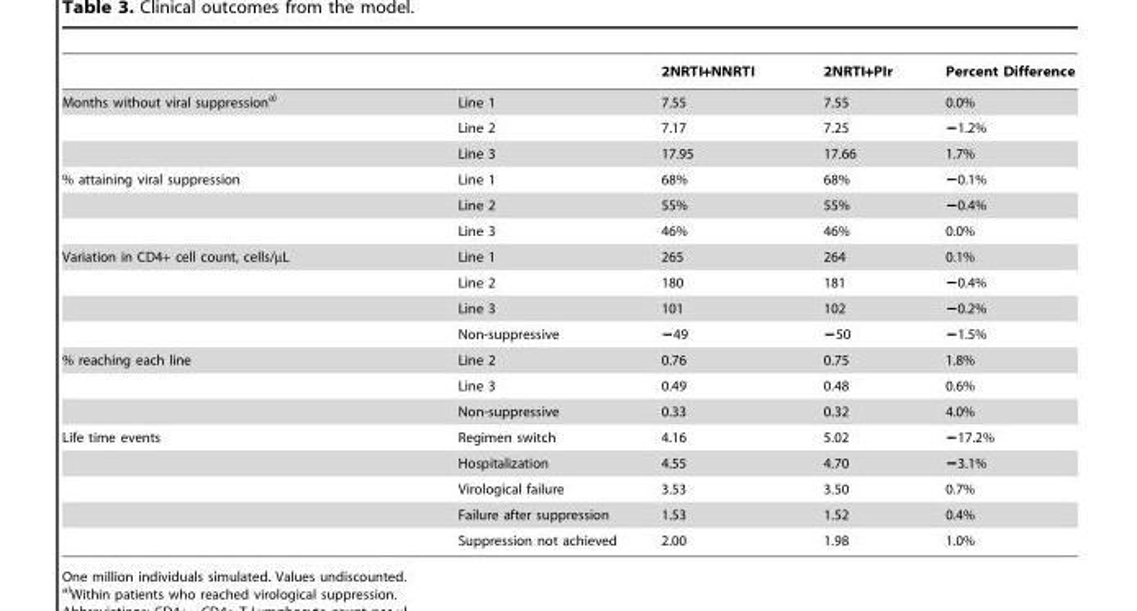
<table><thead><tr><td></td><td></td><td>2NRTI+NNRTI</td><td>2NRTI+PIr</td><td>Percent Difference</td></tr></thead><tbody><tr><td rowspan="3">Months without viral suppressiona)</td><td>Line 1</td><td>7.55</td><td>7.55</td><td>0.0%</td></tr><tr><td>Line 2</td><td>7.17</td><td>7.25</td><td>−1.2%</td></tr><tr><td>Line 3</td><td>17.95</td><td>17.66</td><td>1.7%</td></tr><tr><td rowspan="3">% attaining viral suppression</td><td>Line 1</td><td>68%</td><td>68%</td><td>−0.1%</td></tr><tr><td>Line 2</td><td>55%</td><td>55%</td><td>−0.4%</td></tr><tr><td>Line 3</td><td>46%</td><td>46%</td><td>0.0%</td></tr><tr><td rowspan="4">Variation in CD4+ cell count, cells/µL</td><td>Line 1</td><td>265</td><td>264</td><td>0.1%</td></tr><tr><td>Line 2</td><td>180</td><td>181</td><td>−0.4%</td></tr><tr><td>Line 3</td><td>101</td><td>102</td><td>−0.2%</td></tr><tr><td>Non-suppressive</td><td>−49</td><td>−50</td><td>−1.5%</td></tr><tr><td rowspan="3">% reaching each line</td><td>Line 2</td><td>0.76</td><td>0.75</td><td>1.8%</td></tr><tr><td>Line 3</td><td>0.49</td><td>0.48</td><td>0.6%</td></tr><tr><td>Non-suppressive</td><td>0.33</td><td>0.32</td><td>4.0%</td></tr><tr><td rowspan="5">Life time events</td><td>Regimen switch</td><td>4.16</td><td>5.02</td><td>−17.2%</td></tr><tr><td>Hospitalization</td><td>4.55</td><td>4.70</td><td>−3.1%</td></tr><tr><td>Virological failure</td><td>3.53</td><td>3.50</td><td>0.7%</td></tr><tr><td>Failure after suppression</td><td>1.53</td><td>1.52</td><td>0.4%</td></tr><tr><td>Suppression not achieved</td><td>2.00</td><td>1.98</td><td>1.0%</td></tr></tbody></table>